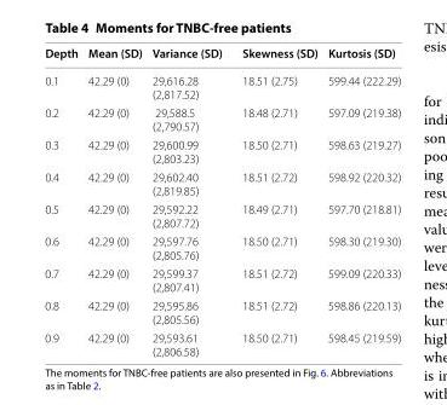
<table><thead><tr><td>Depth</td><td>Mean (SD)</td><td>Variance (SD)</td><td>Skewness (SD)</td><td>Kurtosis (SD)</td></tr></thead><tbody><tr><td>0.1</td><td>42.29 (0)</td><td>29,616.28 (2,817.52)</td><td>18.51 (2.75)</td><td>599.44 (222.29)</td></tr><tr><td>0.2</td><td>42.29 (0)</td><td>29,588.5 (2,790.57)</td><td>18.48 (2.71)</td><td>597.09 (219.38)</td></tr><tr><td>0.3</td><td>42.29 (0)</td><td>29,600.99 (2,803.23)</td><td>18.50 (2.71)</td><td>598.63 (219.27)</td></tr><tr><td>0.4</td><td>42.29 (0)</td><td>29,602.40 (2,819.85)</td><td>18.51 (2.72)</td><td>598.92 (220.32)</td></tr><tr><td>0.5</td><td>42.29 (0)</td><td>29,592.22 (2,807.72)</td><td>18.49 (2.71)</td><td>597.70 (218.81)</td></tr><tr><td>0.6</td><td>42.29 (0)</td><td>29,597.76 (2,805.76)</td><td>18.50 (2.71)</td><td>598.30 (219.30)</td></tr><tr><td>0.7</td><td>42.29 (0)</td><td>29,599.37 (2,807.41)</td><td>18.51 (2.72)</td><td>599.09 (220.33)</td></tr><tr><td>0.8</td><td>42.29 (0)</td><td>29,595.86 (2,805.56)</td><td>18.51 (2.72)</td><td>598.86 (220.13)</td></tr><tr><td>0.9</td><td>42.29 (0)</td><td>29,593.61 (2,806.58)</td><td>18.50 (2.71)</td><td>598.45 (219.59)</td></tr></tbody></table>